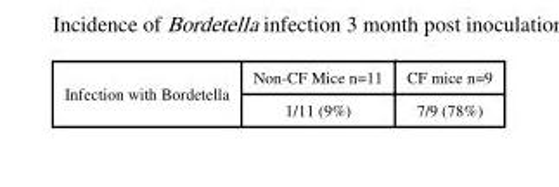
<table><tbody><tr><td rowspan="2">Infection with Bordetella</td><td>Non-CF Mice n=11</td><td>CF mice n=9</td></tr><tr><td>1/11 (9%)</td><td>7/9 (78%)</td></tr></tbody></table>